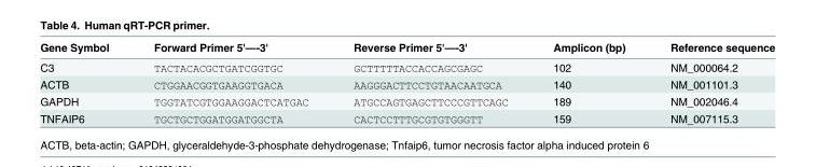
<table><thead><tr><td>Gene Symbol</td><td>Forward Primer 5&#x27;—-3&#x27;</td><td>Reverse Primer 5&#x27;—-3&#x27;</td><td>Amplicon (bp)</td><td>Reference sequence</td></tr></thead><tbody><tr><td>C3</td><td>TACTACACGCTGATCGGTGC</td><td>GCTTTTTACCACCAGCGAGC</td><td>102</td><td>NM_000064.2</td></tr><tr><td>ACTB</td><td>CTGGAACGGTGAAGGTGACA</td><td>AAGGGACTTCCTGTAACAATGCA</td><td>140</td><td>NM_001101.3</td></tr><tr><td>GAPDH</td><td>TGGTATCGTGGAAGGACTCATGAC</td><td>ATGCCAGTGAGCTTCCCGTTCAGC</td><td>189</td><td>NM_002046.4</td></tr><tr><td>TNFAIP6</td><td>TGCTGCTGGATGGATGGCTA</td><td>CACTCCTTTGCGTGTGGGTT</td><td>159</td><td>NM_007115.3</td></tr></tbody></table>